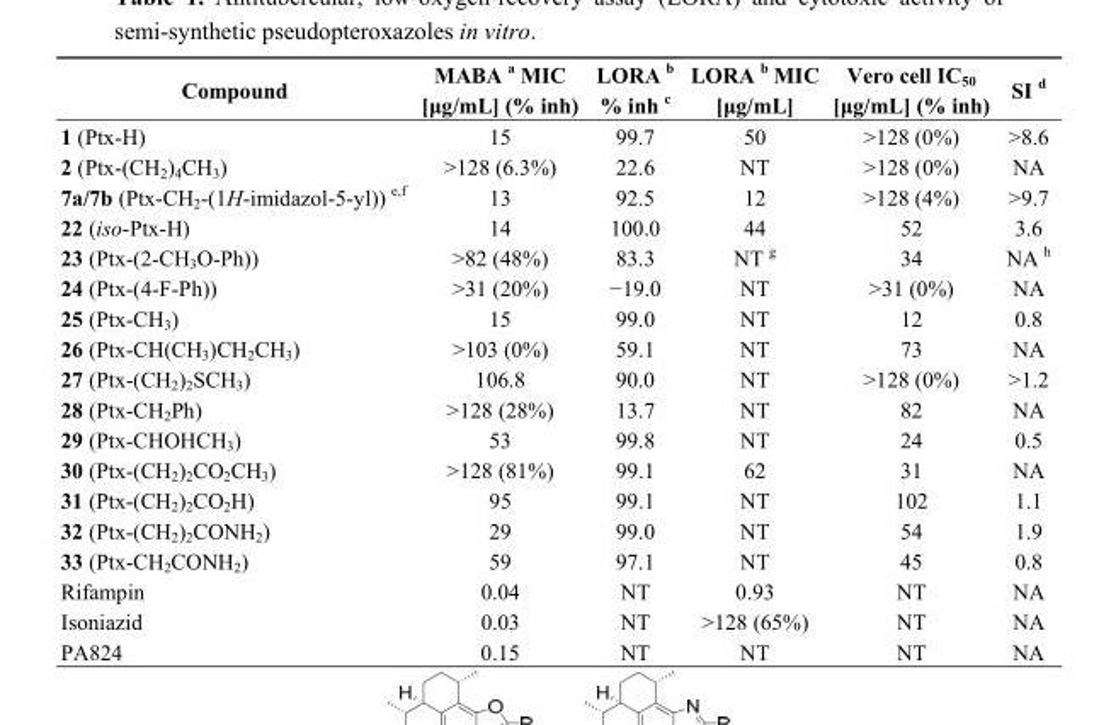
<table><thead><tr><td>Compound</td><td>MABA <sup>a</sup> MIC [μg/mL] (% inh)</td><td>LORA <sup>b</sup> % inh <sup>c</sup></td><td>LORA <sup>b</sup> MIC [μg/mL]</td><td>Vero cell IC<sub>50</sub> [μg/mL] (% inh)</td><td>SI <sup>d</sup></td></tr></thead><tbody><tr><td>1 (Ptx-H)</td><td>15</td><td>99.7</td><td>50</td><td>&gt;128 (0%)</td><td>&gt;8.6</td></tr><tr><td>2 (Ptx-(CH<sub>2</sub>)<sub>4</sub>CH<sub>3</sub>)</td><td>&gt;128 (6.3%)</td><td>22.6</td><td>NT</td><td>&gt;128 (0%)</td><td>NA</td></tr><tr><td>7a/7b (Ptx-CH<sub>2</sub>-(1H-imidazol-5-yl)) <sup>e,f</sup></td><td>13</td><td>92.5</td><td>12</td><td>&gt;128 (4%)</td><td>&gt;9.7</td></tr><tr><td>22 (iso-Ptx-H)</td><td>14</td><td>100.0</td><td>44</td><td>52</td><td>3.6</td></tr><tr><td>23 (Ptx-(2-CH<sub>3</sub>O-Ph))</td><td>&gt;82 (48%)</td><td>83.3</td><td>NT <sup>g</sup></td><td>34</td><td>NA <sup>h</sup></td></tr><tr><td>24 (Ptx-(4-F-Ph))</td><td>&gt;31 (20%)</td><td>−19.0</td><td>NT</td><td>&gt;31 (0%)</td><td>NA</td></tr><tr><td>25 (Ptx-CH<sub>3</sub>)</td><td>15</td><td>99.0</td><td>NT</td><td>12</td><td>0.8</td></tr><tr><td>26 (Ptx-CH(CH<sub>3</sub>)CH<sub>2</sub>CH<sub>3</sub>)</td><td>&gt;103 (0%)</td><td>59.1</td><td>NT</td><td>73</td><td>NA</td></tr><tr><td>27 (Ptx-(CH<sub>2</sub>)<sub>2</sub>SCH<sub>3</sub>)</td><td>106.8</td><td>90.0</td><td>NT</td><td>&gt;128 (0%)</td><td>&gt;1.2</td></tr><tr><td>28 (Ptx-CH<sub>2</sub>Ph)</td><td>&gt;128 (28%)</td><td>13.7</td><td>NT</td><td>82</td><td>NA</td></tr><tr><td>29 (Ptx-CHOHCH<sub>3</sub>)</td><td>53</td><td>99.8</td><td>NT</td><td>24</td><td>0.5</td></tr><tr><td>30 (Ptx-(CH<sub>2</sub>)<sub>2</sub>CO<sub>2</sub>CH<sub>3</sub>)</td><td>&gt;128 (81%)</td><td>99.1</td><td>62</td><td>31</td><td>NA</td></tr><tr><td>31 (Ptx-(CH<sub>2</sub>)<sub>2</sub>CO<sub>2</sub>H)</td><td>95</td><td>99.1</td><td>NT</td><td>102</td><td>1.1</td></tr><tr><td>32 (Ptx-(CH<sub>2</sub>)<sub>2</sub>CONH<sub>2</sub>)</td><td>29</td><td>99.0</td><td>NT</td><td>54</td><td>1.9</td></tr><tr><td>33 (Ptx-CH<sub>2</sub>CONH<sub>2</sub>)</td><td>59</td><td>97.1</td><td>NT</td><td>45</td><td>0.8</td></tr><tr><td>Rifampin</td><td>0.04</td><td>NT</td><td>0.93</td><td>NT</td><td>NA</td></tr><tr><td>Isoniazid</td><td>0.03</td><td>NT</td><td>&gt;128 (65%)</td><td>NT</td><td>NA</td></tr><tr><td>PA824</td><td>0.15</td><td>NT</td><td>NT</td><td>NT</td><td>NA</td></tr></tbody></table>